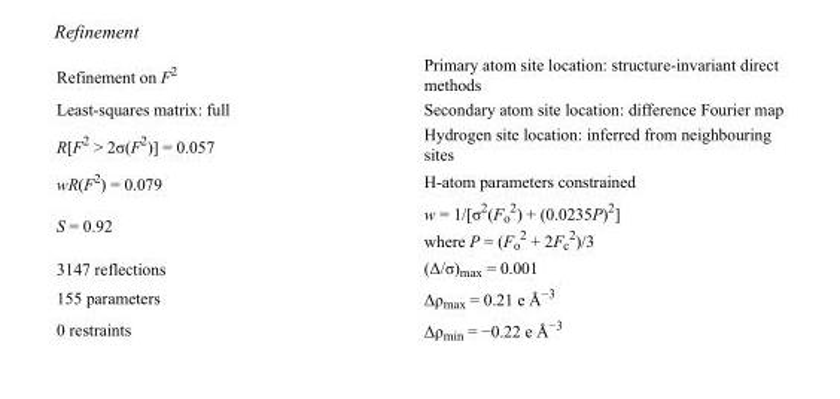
<table><tbody><tr><td>Refinement on F<sup>2</sup></td><td>Primary atom site location: structure-invariant direct methods</td></tr><tr><td>Least-squares matrix: full</td><td>Secondary atom site location: difference Fourier map</td></tr><tr><td>R[F<sup>2</sup> &gt; 2σ(F<sup>2</sup>)] = 0.057</td><td>Hydrogen site location: inferred from neighbouring sites</td></tr><tr><td>wR(F<sup>2</sup>) = 0.079</td><td>H-atom parameters constrained</td></tr><tr><td>S = 0.92</td><td>w = 1/[σ<sup>2</sup>(F<sub>o</sub> <sup>2</sup>) + (0.0235P)<sup>2</sup>] where P = (F<sub>o</sub> <sup>2</sup> + 2F<sub>c</sub> <sup>2</sup>)/3</td></tr><tr><td>3147 reflections</td><td>(Δ/σ)<sub>max</sub> = 0.001</td></tr><tr><td>155 parameters</td><td>Δρ<sub>max</sub> = 0.21 e Å<sup>−3</sup></td></tr><tr><td>0 restraints</td><td>Δρ<sub>min</sub> = −0.22 e Å<sup>−3</sup></td></tr></tbody></table>